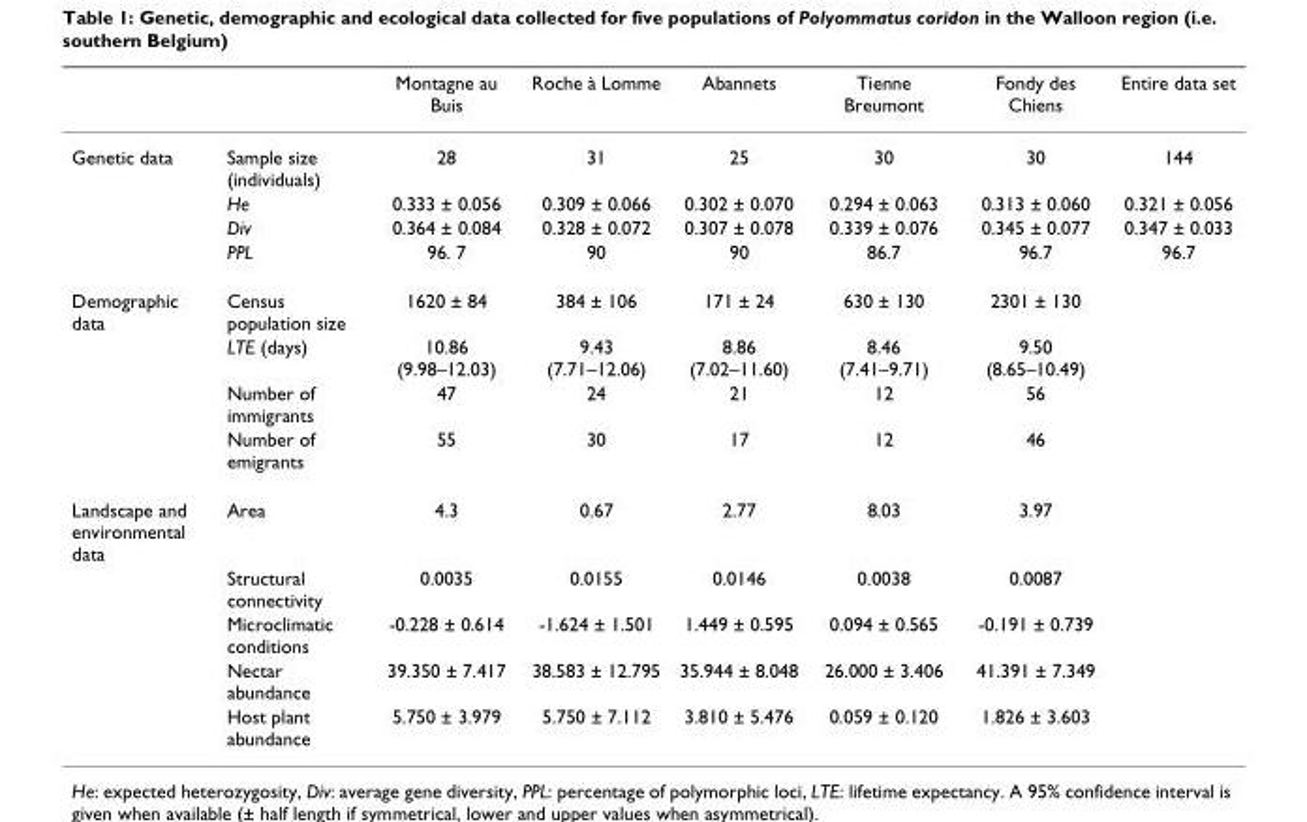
<table><thead><tr><td></td><td></td><td>Montagne au Buis</td><td>Roche à Lomme</td><td>Abannets</td><td>Tienne Breumont</td><td>Fondy des Chiens</td><td>Entire data set</td></tr></thead><tbody><tr><td rowspan="4">Genetic data</td><td>Sample size (individuals)</td><td>28</td><td>31</td><td>25</td><td>30</td><td>30</td><td>144</td></tr><tr><td>He</td><td>0.333 ± 0.056</td><td>0.309 ± 0.066</td><td>0.302 ± 0.070</td><td>0.294 ± 0.063</td><td>0.313 ± 0.060</td><td>0.321 ± 0.056</td></tr><tr><td>Div</td><td>0.364 ± 0.084</td><td>0.328 ± 0.072</td><td>0.307 ± 0.078</td><td>0.339 ± 0.076</td><td>0.345 ± 0.077</td><td>0.347 ± 0.033</td></tr><tr><td>PPL</td><td>96. 7</td><td>90</td><td>90</td><td>86.7</td><td>96.7</td><td>96.7</td></tr><tr><td rowspan="4">Demographic data</td><td>Census population size</td><td>1620 ± 84</td><td>384 ± 106</td><td>171 ± 24</td><td>630 ± 130</td><td>2301 ± 130</td><td></td></tr><tr><td>LTE (days)</td><td>10.86 (9.98–12.03)</td><td>9.43 (7.71–12.06)</td><td>8.86 (7.02–11.60)</td><td>8.46 (7.41–9.71)</td><td>9.50 (8.65–10.49)</td><td></td></tr><tr><td>Number of immigrants</td><td>47</td><td>24</td><td>21</td><td>12</td><td>56</td><td></td></tr><tr><td>Number of emigrants</td><td>55</td><td>30</td><td>17</td><td>12</td><td>46</td><td></td></tr><tr><td rowspan="5">Landscape and environmental data</td><td>Area</td><td>4.3</td><td>0.67</td><td>2.77</td><td>8.03</td><td>3.97</td><td></td></tr><tr><td>Structural connectivity</td><td>0.0035</td><td>0.0155</td><td>0.0146</td><td>0.0038</td><td>0.0087</td><td></td></tr><tr><td>Microclimatic conditions</td><td>-0.228 ± 0.614</td><td>-1.624 ± 1.501</td><td>1.449 ± 0.595</td><td>0.094 ± 0.565</td><td>-0.191 ± 0.739</td><td></td></tr><tr><td>Nectar abundance</td><td>39.350 ± 7.417</td><td>38.583 ± 12.795</td><td>35.944 ± 8.048</td><td>26.000 ± 3.406</td><td>41.391 ± 7.349</td><td></td></tr><tr><td>Host plant abundance</td><td>5.750 ± 3.979</td><td>5.750 ± 7.112</td><td>3.810 ± 5.476</td><td>0.059 ± 0.120</td><td>1.826 ± 3.603</td><td></td></tr></tbody></table>